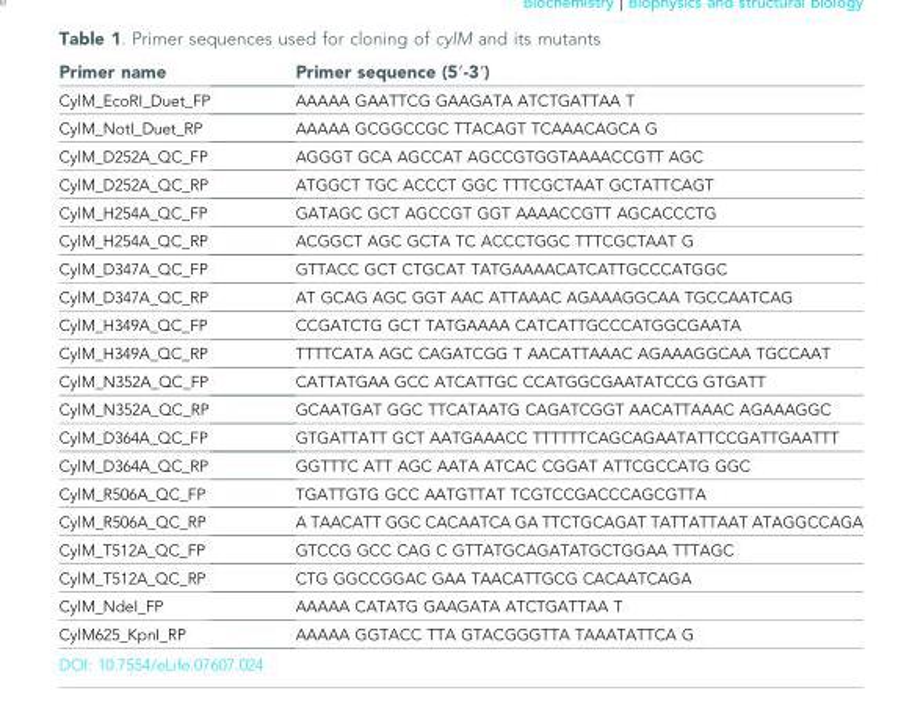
<table><thead><tr><td>Primer name</td><td>Primer sequence (5′-3′)</td></tr></thead><tbody><tr><td>CylM_EcoRI_Duet_FP</td><td>AAAAA GAATTCG GAAGATA ATCTGATTAA T</td></tr><tr><td>CylM_NotI_Duet_RP</td><td>AAAAA GCGGCCGC TTACAGT TCAAACAGCA G</td></tr><tr><td>CylM_D252A_QC_FP</td><td>AGGGT GCA AGCCAT AGCCGTGGTAAAACCGTT AGC</td></tr><tr><td>CylM_D252A_QC_RP</td><td>ATGGCT TGC ACCCT GGC TTTCGCTAAT GCTATTCAGT</td></tr><tr><td>CylM_H254A_QC_FP</td><td>GATAGC GCT AGCCGT GGT AAAACCGTT AGCACCCTG</td></tr><tr><td>CylM_H254A_QC_RP</td><td>ACGGCT AGC GCTA TC ACCCTGGC TTTCGCTAAT G</td></tr><tr><td>CylM_D347A_QC_FP</td><td>GTTACC GCT CTGCAT TATGAAAACATCATTGCCCATGGC</td></tr><tr><td>CylM_D347A_QC_RP</td><td>AT GCAG AGC GGT AAC ATTAAAC AGAAAGGCAA TGCCAATCAG</td></tr><tr><td>CylM_H349A_QC_FP</td><td>CCGATCTG GCT TATGAAAA CATCATTGCCCATGGCGAATA</td></tr><tr><td>CylM_H349A_QC_RP</td><td>TTTTCATA AGC CAGATCGG T AACATTAAAC AGAAAGGCAA TGCCAAT</td></tr><tr><td>CylM_N352A_QC_FP</td><td>CATTATGAA GCC ATCATTGC CCATGGCGAATATCCG GTGATT</td></tr><tr><td>CylM_N352A_QC_RP</td><td>GCAATGAT GGC TTCATAATG CAGATCGGT AACATTAAAC AGAAAGGC</td></tr><tr><td>CylM_D364A_QC_FP</td><td>GTGATTATT GCT AATGAAACC TTTTTTCAGCAGAATATTCCGATTGAATTT</td></tr><tr><td>CylM_D364A_QC_RP</td><td>GGTTTC ATT AGC AATA ATCAC CGGAT ATTCGCCATG GGC</td></tr><tr><td>CylM_R506A_QC_FP</td><td>TGATTGTG GCC AATGTTAT TCGTCCGACCCAGCGTTA</td></tr><tr><td>CylM_R506A_QC_RP</td><td>A TAACATT GGC CACAATCA GA TTCTGCAGAT TATTATTAAT ATAGGCCAGA</td></tr><tr><td>CylM_T512A_QC_FP</td><td>GTCCG GCC CAG C GTTATGCAGATATGCTGGAA TTTAGC</td></tr><tr><td>CylM_T512A_QC_RP</td><td>CTG GGCCGGAC GAA TAACATTGCG CACAATCAGA</td></tr><tr><td>CylM_NdeI_FP</td><td>AAAAA CATATG GAAGATA ATCTGATTAA T</td></tr><tr><td>CylM625_KpnI_RP</td><td>AAAAA GGTACC TTA GTACGGGTTA TAAATATTCA G</td></tr></tbody></table>